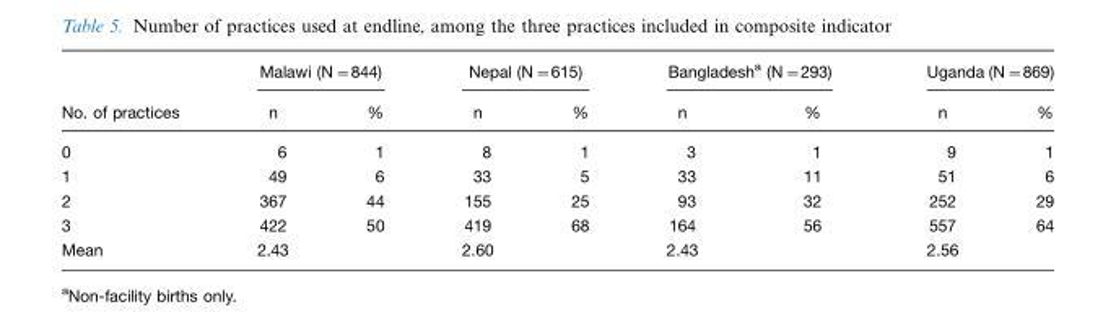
<table><thead><tr><td rowspan="2">No. of practices</td><td colspan="2">Malawi (N=844)</td><td colspan="2">Nepal (N=615)</td><td colspan="2">Bangladesha (N=293)</td><td colspan="2">Uganda (N=869)</td></tr><tr><td>n</td><td>%</td><td>n</td><td>%</td><td>n</td><td>%</td><td>n</td><td>%</td></tr></thead><tbody><tr><td>0</td><td>6</td><td>1</td><td>8</td><td>1</td><td>3</td><td>1</td><td>9</td><td>1</td></tr><tr><td>1</td><td>49</td><td>6</td><td>33</td><td>5</td><td>33</td><td>11</td><td>51</td><td>6</td></tr><tr><td>2</td><td>367</td><td>44</td><td>155</td><td>25</td><td>93</td><td>32</td><td>252</td><td>29</td></tr><tr><td>3</td><td>422</td><td>50</td><td>419</td><td>68</td><td>164</td><td>56</td><td>557</td><td>64</td></tr><tr><td>Mean</td><td>2.43</td><td></td><td>2.60</td><td></td><td>2.43</td><td></td><td>2.56</td><td></td></tr></tbody></table>